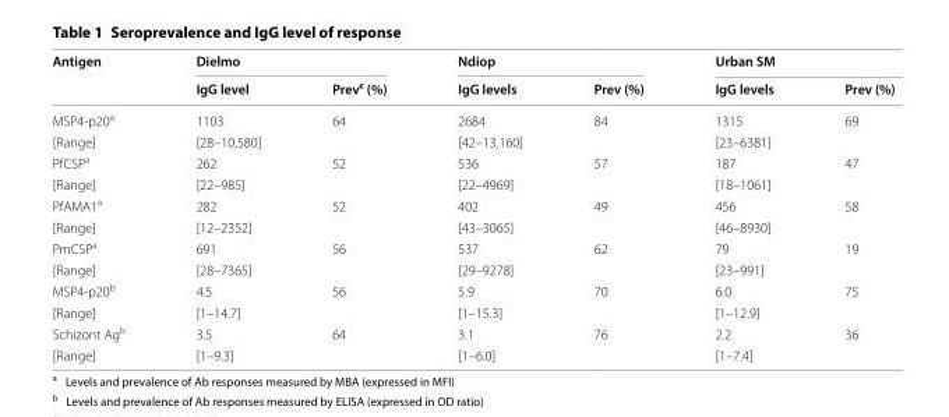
<table><thead><tr><td rowspan="2">Antigen</td><td colspan="2">Dielmo</td><td colspan="2">Ndiop</td><td colspan="2">Urban SM</td></tr><tr><td>IgG level</td><td>Prev<sup>c</sup> (%)</td><td>IgG levels</td><td>Prev (%)</td><td>IgG levels</td><td>Prev (%)</td></tr></thead><tbody><tr><td>MSP4‑p20<sup>a</sup></td><td>1103</td><td rowspan="2">64</td><td>2684</td><td rowspan="2">84</td><td>1315</td><td rowspan="2">69</td></tr><tr><td>[Range]</td><td>[28–10,580]</td><td>[42–13,160]</td><td>[23–6381]</td></tr><tr><td>PfCSP<sup>a</sup></td><td>262</td><td rowspan="2">52</td><td>536</td><td rowspan="2">57</td><td>187</td><td rowspan="2">47</td></tr><tr><td>[Range]</td><td>[22–985]</td><td>[22–4969]</td><td>[18–1061]</td></tr><tr><td>PfAMA1<sup>a</sup></td><td>282</td><td rowspan="2">52</td><td>402</td><td rowspan="2">49</td><td>456</td><td rowspan="2">58</td></tr><tr><td>[Range]</td><td>[12–2352]</td><td>[43–3065]</td><td>[46–8930]</td></tr><tr><td>PmCSP<sup>a</sup></td><td>691</td><td rowspan="2">56</td><td>537</td><td rowspan="2">62</td><td>79</td><td rowspan="2">19</td></tr><tr><td>[Range]</td><td>[28–7365]</td><td>[29–9278]</td><td>[23–991]</td></tr><tr><td>MSP4‑p20<sup>b</sup></td><td>4.5</td><td rowspan="2">56</td><td>5.9</td><td rowspan="2">70</td><td>6.0</td><td rowspan="2">75</td></tr><tr><td>[Range]</td><td>[1–14.7]</td><td>[1–15.3]</td><td>[1–12.9]</td></tr><tr><td>Schizont Ag<sup>b</sup></td><td>3.5</td><td rowspan="2">64</td><td>3.1</td><td rowspan="2">76</td><td>2.2</td><td rowspan="2">36</td></tr><tr><td>[Range]</td><td>[1–9.3]</td><td>[1–6.0]</td><td>[1–7.4]</td></tr></tbody></table>